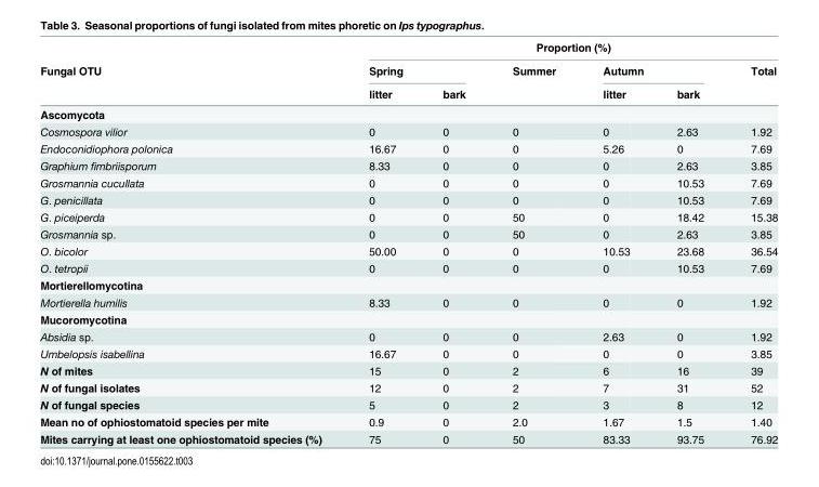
<table><thead><tr><td rowspan="3">Fungal OTU</td><td colspan="6">Proportion (%)</td></tr><tr><td colspan="2">Spring</td><td rowspan="2">Summer</td><td colspan="2">Autumn</td><td rowspan="2">Total</td></tr><tr><td>litter</td><td>bark</td><td>litter</td><td>bark</td></tr></thead><tbody><tr><td colspan="7">Ascomycota</td></tr><tr><td>Cosmospora vilior</td><td>0</td><td>0</td><td>0</td><td>0</td><td>2.63</td><td>1.92</td></tr><tr><td>Endoconidiophora polonica</td><td>16.67</td><td>0</td><td>0</td><td>5.26</td><td>0</td><td>7.69</td></tr><tr><td>Graphium fimbriisporum</td><td>8.33</td><td>0</td><td>0</td><td>0</td><td>2.63</td><td>3.85</td></tr><tr><td>Grosmannia cucullata</td><td>0</td><td>0</td><td>0</td><td>0</td><td>10.53</td><td>7.69</td></tr><tr><td>G. penicillata</td><td>0</td><td>0</td><td>0</td><td>0</td><td>10.53</td><td>7.69</td></tr><tr><td>G. piceiperda</td><td>0</td><td>0</td><td>50</td><td>0</td><td>18.42</td><td>15.38</td></tr><tr><td>Grosmannia sp.</td><td>0</td><td>0</td><td>50</td><td>0</td><td>2.63</td><td>3.85</td></tr><tr><td>O. bicolor</td><td>50.00</td><td>0</td><td>0</td><td>10.53</td><td>23.68</td><td>36.54</td></tr><tr><td>O. tetropii</td><td>0</td><td>0</td><td>0</td><td>0</td><td>10.53</td><td>7.69</td></tr><tr><td colspan="7">Mortierellomycotina</td></tr><tr><td>Mortierella humilis</td><td>8.33</td><td>0</td><td>0</td><td>0</td><td>0</td><td>1.92</td></tr><tr><td colspan="7">Mucoromycotina</td></tr><tr><td>Absidia sp.</td><td>0</td><td>0</td><td>0</td><td>2.63</td><td>0</td><td>1.92</td></tr><tr><td>Umbelopsis isabellina</td><td>16.67</td><td>0</td><td>0</td><td>0</td><td>0</td><td>3.85</td></tr><tr><td>N of mites</td><td>15</td><td>0</td><td>2</td><td>6</td><td>16</td><td>39</td></tr><tr><td>N of fungal isolates</td><td>12</td><td>0</td><td>2</td><td>7</td><td>31</td><td>52</td></tr><tr><td>N of fungal species</td><td>5</td><td>0</td><td>2</td><td>3</td><td>8</td><td>12</td></tr><tr><td>Mean no of ophiostomatoid species per mite</td><td>0.9</td><td>0</td><td>2.0</td><td>1.67</td><td>1.5</td><td>1.40</td></tr><tr><td>Mites carrying at least one ophiostomatoid species (%)</td><td>75</td><td>0</td><td>50</td><td>83.33</td><td>93.75</td><td>76.92</td></tr></tbody></table>